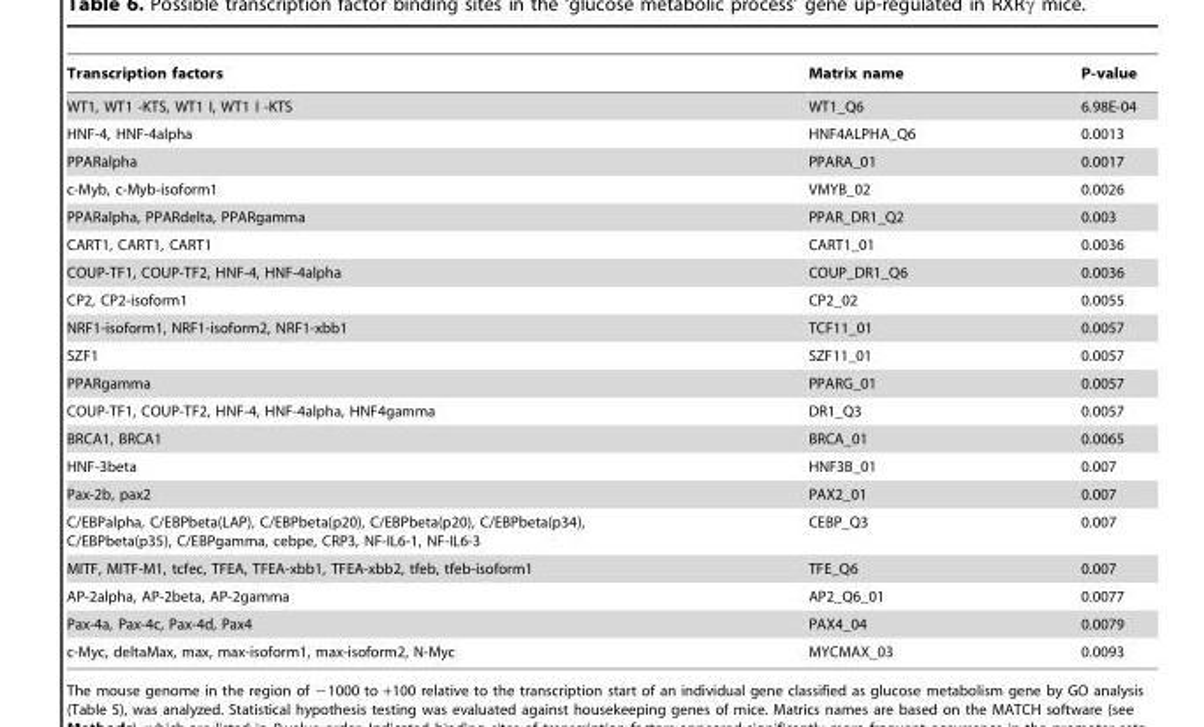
<table><thead><tr><td>Transcription factors</td><td>Matrix name</td><td>P-value</td></tr></thead><tbody><tr><td>WT1, WT1 -KTS, WT1 I, WT1 I -KTS</td><td>WT1_Q6</td><td>6.98E-04</td></tr><tr><td>HNF-4, HNF-4alpha</td><td>HNF4ALPHA_Q6</td><td>0.0013</td></tr><tr><td>PPARalpha</td><td>PPARA_01</td><td>0.0017</td></tr><tr><td>c-Myb, c-Myb-isoform1</td><td>VMYB_02</td><td>0.0026</td></tr><tr><td>PPARalpha, PPARdelta, PPARgamma</td><td>PPAR_DR1_Q2</td><td>0.003</td></tr><tr><td>CART1, CART1, CART1</td><td>CART1_01</td><td>0.0036</td></tr><tr><td>COUP-TF1, COUP-TF2, HNF-4, HNF-4alpha</td><td>COUP_DR1_Q6</td><td>0.0036</td></tr><tr><td>CP2, CP2-isoform1</td><td>CP2_02</td><td>0.0055</td></tr><tr><td>NRF1-isoform1, NRF1-isoform2, NRF1-xbb1</td><td>TCF11_01</td><td>0.0057</td></tr><tr><td>SZF1</td><td>SZF11_01</td><td>0.0057</td></tr><tr><td>PPARgamma</td><td>PPARG_01</td><td>0.0057</td></tr><tr><td>COUP-TF1, COUP-TF2, HNF-4, HNF-4alpha, HNF4gamma</td><td>DR1_Q3</td><td>0.0057</td></tr><tr><td>BRCA1, BRCA1</td><td>BRCA_01</td><td>0.0065</td></tr><tr><td>HNF-3beta</td><td>HNF3B_01</td><td>0.007</td></tr><tr><td>Pax-2b, pax2</td><td>PAX2_01</td><td>0.007</td></tr><tr><td>C/EBPalpha, C/EBPbeta(LAP), C/EBPbeta(p20), C/EBPbeta(p20), C/EBPbeta(p34), C/EBPbeta(p35), C/EBPgamma, cebpe, CRP3, NF-IL6-1, NF-IL6-3</td><td>CEBP_Q3</td><td>0.007</td></tr><tr><td>MITF, MITF-M1, tcfec, TFEA, TFEA-xbb1, TFEA-xbb2, tfeb, tfeb-isoform1</td><td>TFE_Q6</td><td>0.007</td></tr><tr><td>AP-2alpha, AP-2beta, AP-2gamma</td><td>AP2_Q6_01</td><td>0.0077</td></tr><tr><td>Pax-4a, Pax-4c, Pax-4d, Pax4</td><td>PAX4_04</td><td>0.0079</td></tr><tr><td>c-Myc, deltaMax, max, max-isoform1, max-isoform2, N-Myc</td><td>MYCMAX_03</td><td>0.0093</td></tr></tbody></table>